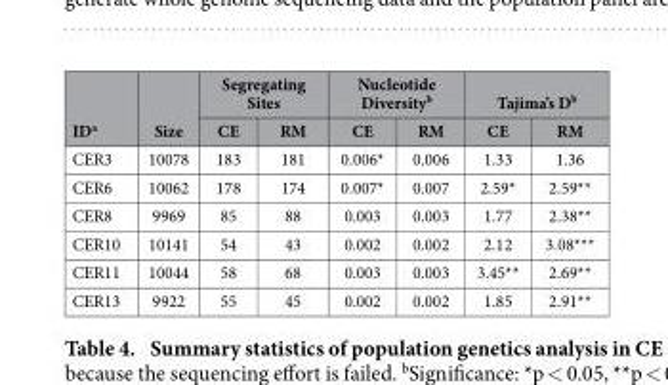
<table><thead><tr><td rowspan="2">ID<sup>a</sup></td><td rowspan="2">Size</td><td colspan="2">Segregating Sites</td><td colspan="2">Nucleotide Diversity<sup>b</sup></td><td colspan="2">Tajima’s D<sup>b</sup></td></tr><tr><td>CE</td><td>RM</td><td>CE</td><td>RM</td><td>CE</td><td>RM</td></tr></thead><tbody><tr><td>CER3</td><td>10078</td><td>183</td><td>181</td><td>0.006*</td><td>0.006</td><td>1.33</td><td>1.36</td></tr><tr><td>CER6</td><td>10062</td><td>178</td><td>174</td><td>0.007*</td><td>0.007</td><td>2.59*</td><td>2.59**</td></tr><tr><td>CER8</td><td>9969</td><td>85</td><td>88</td><td>0.003</td><td>0.003</td><td>1.77</td><td>2.38**</td></tr><tr><td>CER10</td><td>10141</td><td>54</td><td>43</td><td>0.002</td><td>0.002</td><td>2.12</td><td>3.08***</td></tr><tr><td>CER11</td><td>10044</td><td>58</td><td>68</td><td>0.003</td><td>0.003</td><td>3.45**</td><td>2.69**</td></tr><tr><td>CER13</td><td>9922</td><td>55</td><td>45</td><td>0.002</td><td>0.002</td><td>1.85</td><td>2.91**</td></tr></tbody></table>